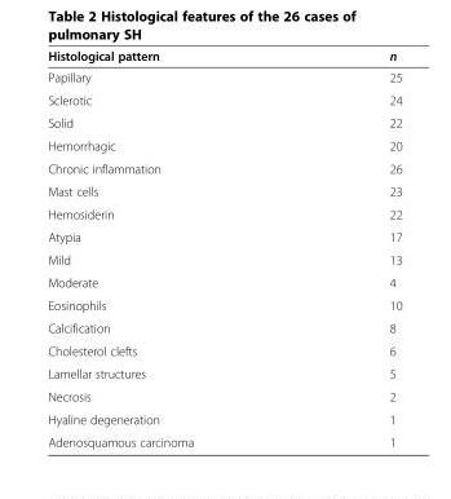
<table><thead><tr><td>Histological pattern</td><td>n</td></tr></thead><tbody><tr><td>Papillary</td><td>25</td></tr><tr><td>Sclerotic</td><td>24</td></tr><tr><td>Solid</td><td>22</td></tr><tr><td>Hemorrhagic</td><td>20</td></tr><tr><td>Chronic inflammation</td><td>26</td></tr><tr><td>Mast cells</td><td>23</td></tr><tr><td>Hemosiderin</td><td>22</td></tr><tr><td>Atypia</td><td>17</td></tr><tr><td>Mild</td><td>13</td></tr><tr><td>Moderate</td><td>4</td></tr><tr><td>Eosinophils</td><td>10</td></tr><tr><td>Calcification</td><td>8</td></tr><tr><td>Cholesterol clefts</td><td>6</td></tr><tr><td>Lamellar structures</td><td>5</td></tr><tr><td>Necrosis</td><td>2</td></tr><tr><td>Hyaline degeneration</td><td>1</td></tr><tr><td>Adenosquamous carcinoma</td><td>1</td></tr></tbody></table>